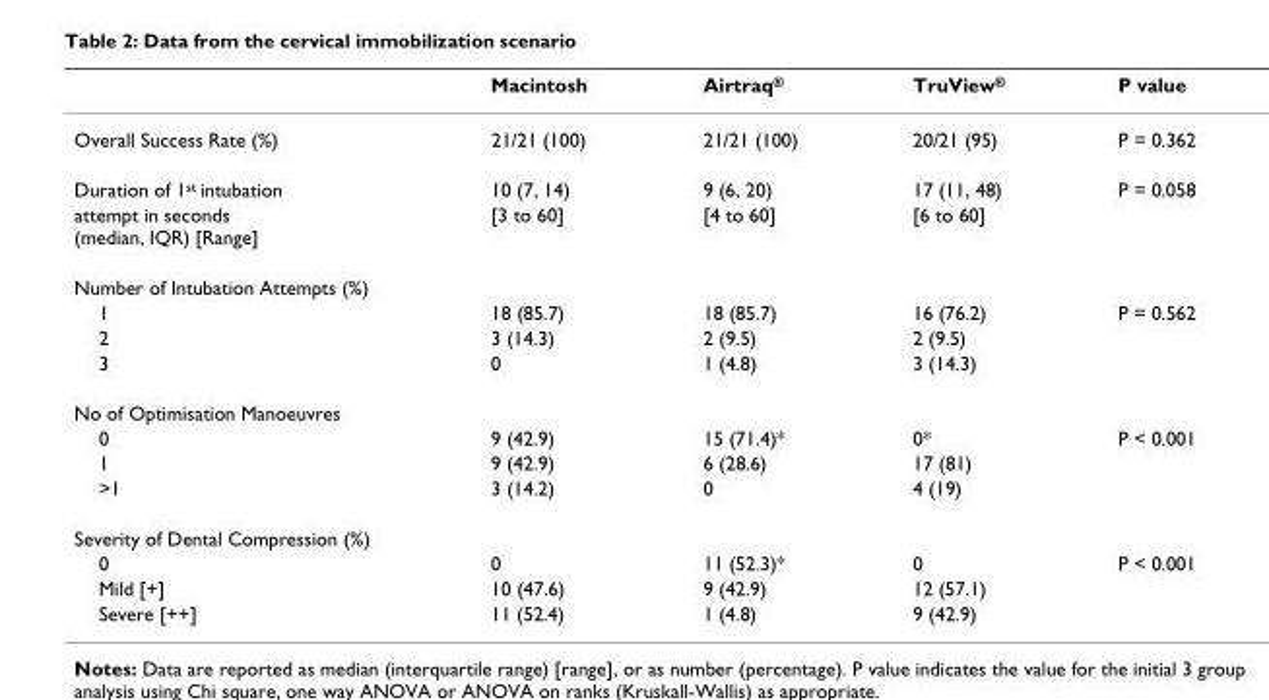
<table><thead><tr><td></td><td>Macintosh</td><td>Airtraq<sup>®</sup></td><td>TruView<sup>®</sup></td><td>P value</td></tr></thead><tbody><tr><td>Overall Success Rate (%)</td><td>21/21 (100)</td><td>21/21 (100)</td><td>20/21 (95)</td><td>P = 0.362</td></tr><tr><td>Duration of 1<sup>st</sup> intubation</td><td>10 (7, 14)</td><td>9 (6, 20)</td><td>17 (11, 48)</td><td>P = 0.058</td></tr><tr><td>attempt in seconds (median, IQR) [Range]</td><td>[3 to 60]</td><td>[4 to 60]</td><td>[6 to 60]</td><td></td></tr><tr><td colspan="5">Number of Intubation Attempts (%)</td></tr><tr><td>1</td><td>18 (85.7)</td><td>18 (85.7)</td><td>16 (76.2)</td><td>P = 0.562</td></tr><tr><td>2</td><td>3 (14.3)</td><td>2 (9.5)</td><td>2 (9.5)</td><td></td></tr><tr><td>3</td><td>0</td><td>1 (4.8)</td><td>3 (14.3)</td><td></td></tr><tr><td colspan="5">No of Optimisation Manoeuvres</td></tr><tr><td>0</td><td>9 (42.9)</td><td>15 (71.4)*</td><td>0*</td><td>P &lt; 0.001</td></tr><tr><td>1</td><td>9 (42.9)</td><td>6 (28.6)</td><td>17 (81)</td><td></td></tr><tr><td>&gt;1</td><td>3 (14.2)</td><td>0</td><td>4 (19)</td><td></td></tr><tr><td colspan="5">Severity of Dental Compression (%)</td></tr><tr><td>0</td><td>0</td><td>11 (52.3)*</td><td>0</td><td>P &lt; 0.001</td></tr><tr><td>Mild [+]</td><td>10 (47.6)</td><td>9 (42.9)</td><td>12 (57.1)</td><td></td></tr><tr><td>Severe [++]</td><td>11 (52.4)</td><td>1 (4.8)</td><td>9 (42.9)</td><td></td></tr></tbody></table>